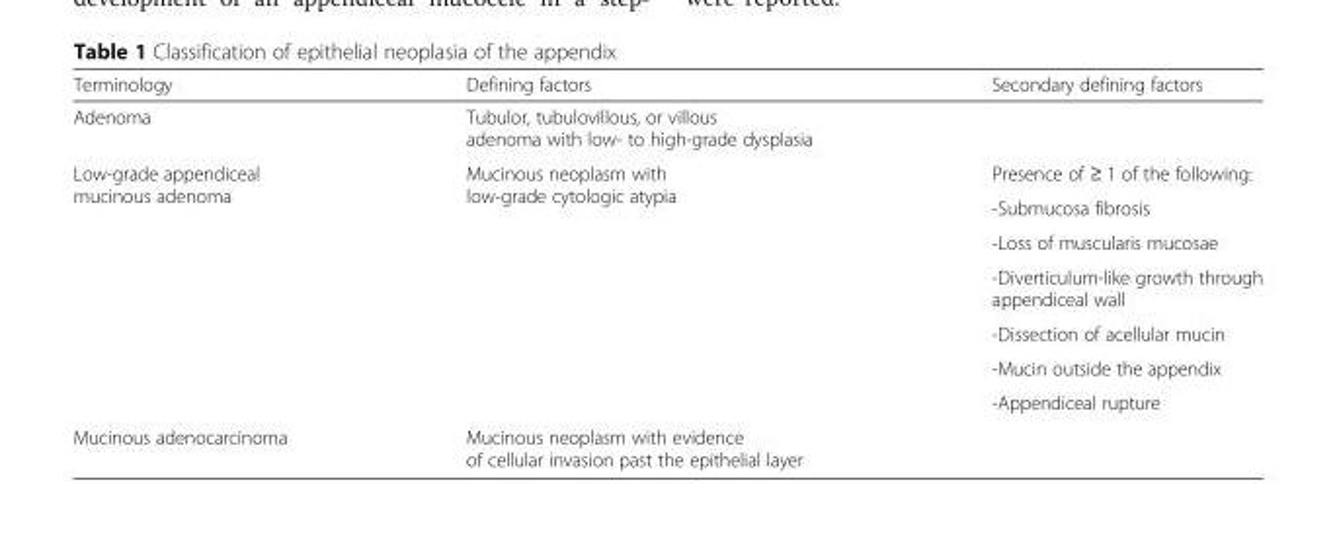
<table><thead><tr><td>Terminology</td><td>Defining factors</td><td>Secondary defining factors</td></tr></thead><tbody><tr><td>Adenoma</td><td>Tubulor, tubulovillous, or villous adenoma with low- to high-grade dysplasia</td><td></td></tr><tr><td rowspan="7">Low-grade appendiceal mucinous adenoma</td><td rowspan="7">Mucinous neoplasm with low-grade cytologic atypia</td><td>Presence of ≥ 1 of the following:</td></tr><tr><td>-Submucosa fibrosis</td></tr><tr><td>-Loss of muscularis mucosae</td></tr><tr><td>-Diverticulum-like growth through appendiceal wall</td></tr><tr><td>-Dissection of acellular mucin</td></tr><tr><td>-Mucin outside the appendix</td></tr><tr><td>-Appendiceal rupture</td></tr><tr><td>Mucinous adenocarcinoma</td><td>Mucinous neoplasm with evidence of cellular invasion past the epithelial layer</td><td></td></tr></tbody></table>